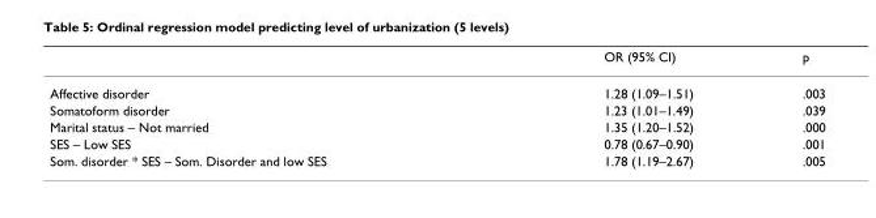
<table><thead><tr><td></td><td>OR (95% CI)</td><td>p</td></tr></thead><tbody><tr><td>Affective disorder</td><td>1.28 (1.09–1.51)</td><td>.003</td></tr><tr><td>Somatoform disorder</td><td>1.23 (1.01–1.49)</td><td>.039</td></tr><tr><td>Marital status – Not married</td><td>1.35 (1.20–1.52)</td><td>.000</td></tr><tr><td>SES – Low SES</td><td>0.78 (0.67–0.90)</td><td>.001</td></tr><tr><td>Som. disorder * SES – Som. Disorder and low SES</td><td>1.78 (1.19–2.67)</td><td>.005</td></tr></tbody></table>